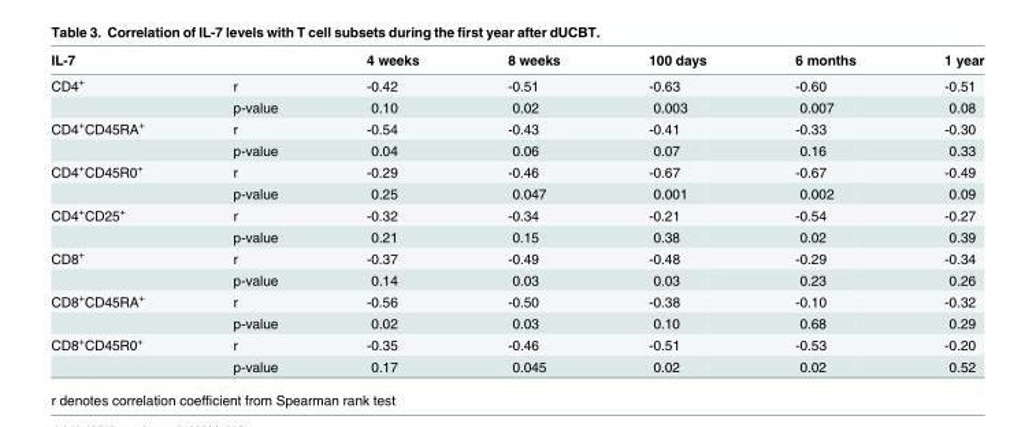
<table><thead><tr><td>IL-7</td><td></td><td>4 weeks</td><td>8 weeks</td><td>100 days</td><td>6 months</td><td>1 year</td></tr></thead><tbody><tr><td rowspan="2">CD4<sup>+</sup></td><td>r</td><td>-0.42</td><td>-0.51</td><td>-0.63</td><td>-0.60</td><td>-0.51</td></tr><tr><td>p-value</td><td>0.10</td><td>0.02</td><td>0.003</td><td>0.007</td><td>0.08</td></tr><tr><td rowspan="2">CD4<sup>+</sup>CD45RA<sup>+</sup></td><td>r</td><td>-0.54</td><td>-0.43</td><td>-0.41</td><td>-0.33</td><td>-0.30</td></tr><tr><td>p-value</td><td>0.04</td><td>0.06</td><td>0.07</td><td>0.16</td><td>0.33</td></tr><tr><td rowspan="2">CD4<sup>+</sup>CD45R0<sup>+</sup></td><td>r</td><td>-0.29</td><td>-0.46</td><td>-0.67</td><td>-0.67</td><td>-0.49</td></tr><tr><td>p-value</td><td>0.25</td><td>0.047</td><td>0.001</td><td>0.002</td><td>0.09</td></tr><tr><td rowspan="2">CD4<sup>+</sup>CD25<sup>+</sup></td><td>r</td><td>-0.32</td><td>-0.34</td><td>-0.21</td><td>-0.54</td><td>-0.27</td></tr><tr><td>p-value</td><td>0.21</td><td>0.15</td><td>0.38</td><td>0.02</td><td>0.39</td></tr><tr><td rowspan="2">CD8<sup>+</sup></td><td>r</td><td>-0.37</td><td>-0.49</td><td>-0.48</td><td>-0.29</td><td>-0.34</td></tr><tr><td>p-value</td><td>0.14</td><td>0.03</td><td>0.03</td><td>0.23</td><td>0.26</td></tr><tr><td rowspan="2">CD8<sup>+</sup>CD45RA<sup>+</sup></td><td>r</td><td>-0.56</td><td>-0.50</td><td>-0.38</td><td>-0.10</td><td>-0.32</td></tr><tr><td>p-value</td><td>0.02</td><td>0.03</td><td>0.10</td><td>0.68</td><td>0.29</td></tr><tr><td rowspan="2">CD8<sup>+</sup>CD45R0<sup>+</sup></td><td>r</td><td>-0.35</td><td>-0.46</td><td>-0.51</td><td>-0.53</td><td>-0.20</td></tr><tr><td>p-value</td><td>0.17</td><td>0.045</td><td>0.02</td><td>0.02</td><td>0.52</td></tr></tbody></table>